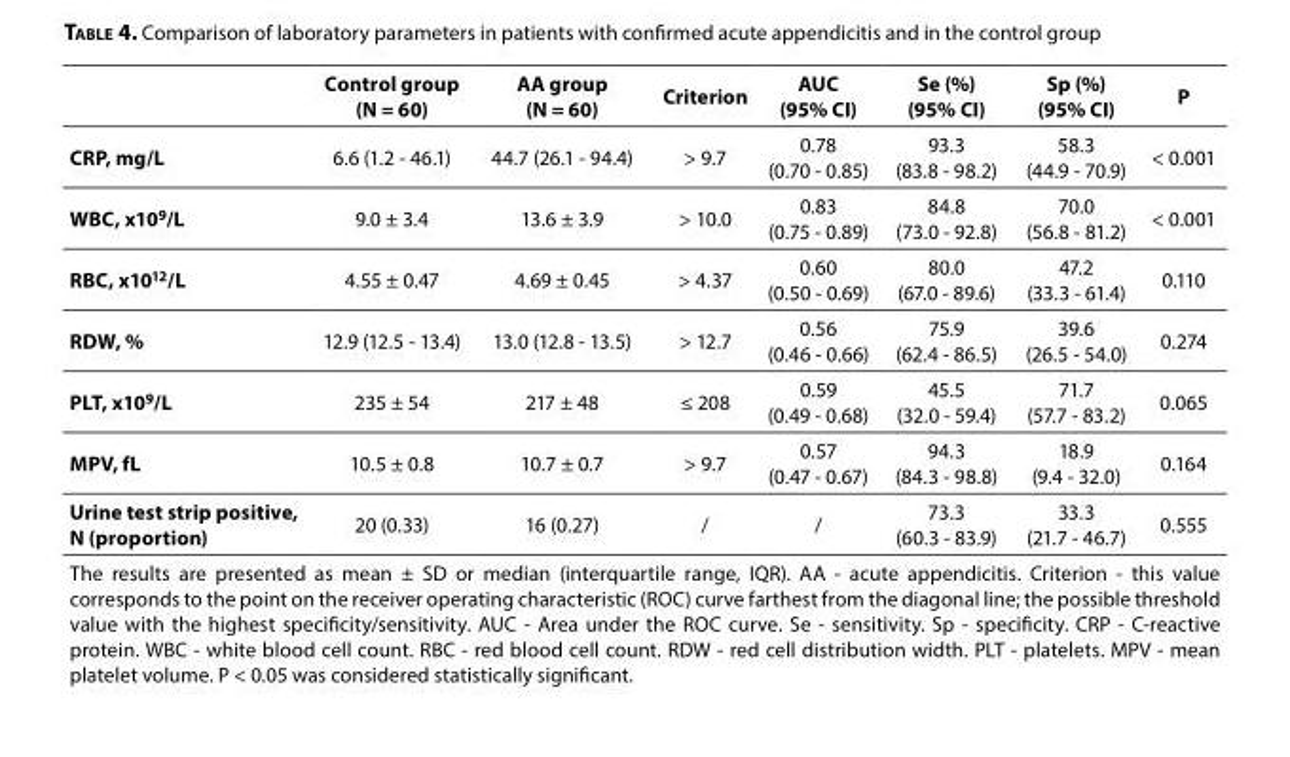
<table><thead><tr><td></td><td>Control group (N = 60)</td><td>AA group (N = 60)</td><td>Criterion</td><td>AUC (95% CI)</td><td>Se (%) (95% CI)</td><td>Sp (%) (95% CI)</td><td>P</td></tr></thead><tbody><tr><td>CRP, mg/L</td><td>6.6 (1.2 - 46.1)</td><td>44.7 (26.1 - 94.4)</td><td>&gt; 9.7</td><td>0.78 (0.70 - 0.85)</td><td>93.3 (83.8 - 98.2)</td><td>58.3 (44.9 - 70.9)</td><td>&lt; 0.001</td></tr><tr><td>WBC, x10<sup>9</sup>/L</td><td>9.0 ± 3.4</td><td>13.6 ± 3.9</td><td>&gt; 10.0</td><td>0.83 (0.75 - 0.89)</td><td>84.8 (73.0 - 92.8)</td><td>70.0 (56.8 - 81.2)</td><td>&lt; 0.001</td></tr><tr><td>RBC, x10<sup>12</sup>/L</td><td>4.55 ± 0.47</td><td>4.69 ± 0.45</td><td>&gt; 4.37</td><td>0.60 (0.50 - 0.69)</td><td>80.0 (67.0 - 89.6)</td><td>47.2 (33.3 - 61.4)</td><td>0.110</td></tr><tr><td>RDW, %</td><td>12.9 (12.5 - 13.4)</td><td>13.0 (12.8 - 13.5)</td><td>&gt; 12.7</td><td>0.56 (0.46 - 0.66)</td><td>75.9 (62.4 - 86.5)</td><td>39.6 (26.5 - 54.0)</td><td>0.274</td></tr><tr><td>PLT, x10<sup>9</sup>/L</td><td>235 ± 54</td><td>217 ± 48</td><td>≤ 208</td><td>0.59 (0.49 - 0.68)</td><td>45.5 (32.0 - 59.4)</td><td>71.7 (57.7 - 83.2)</td><td>0.065</td></tr><tr><td>MPV, fL</td><td>10.5 ± 0.8</td><td>10.7 ± 0.7</td><td>&gt; 9.7</td><td>0.57 (0.47 - 0.67)</td><td>94.3 (84.3 - 98.8)</td><td>18.9 (9.4 - 32.0)</td><td>0.164</td></tr><tr><td>Urine test strip positive, N (proportion)</td><td>20 (0.33)</td><td>16 (0.27)</td><td>/</td><td>/</td><td>73.3 (60.3 - 83.9)</td><td>33.3 (21.7 - 46.7)</td><td>0.555</td></tr><tr><td colspan="8">The results are presented as mean ± SD or median (interquartile range, IQR). AA - acute appendicitis. Criterion - this value corresponds to the point on the receiver operating characteristic (ROC) curve farthest from the diagonal line; the possible threshold value with the highest specificity/sensitivity. AUC - Area under the ROC curve. Se - sensitivity. Sp - specificity. CRP - C-reactive protein. WBC - white blood cell count. RBC - red blood cell count. RDW - red cell distribution width. PLT - platelets. MPV - mean platelet volume. P &lt; 0.05 was considered statistically significant.</td></tr></tbody></table>